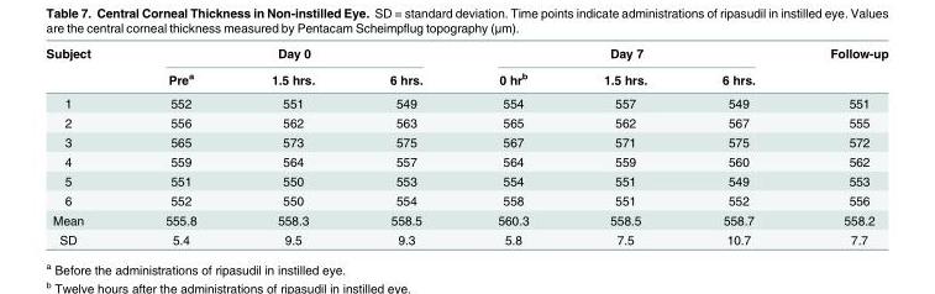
<table><thead><tr><td rowspan="2">Subject</td><td colspan="3">Day 0</td><td colspan="3">Day 7</td><td rowspan="2">Follow-up</td></tr><tr><td>Pre<sup>a</sup></td><td>1.5 hrs.</td><td>6 hrs.</td><td>0 hr<sup>b</sup></td><td>1.5 hrs.</td><td>6 hrs.</td></tr></thead><tbody><tr><td>1</td><td>552</td><td>551</td><td>549</td><td>554</td><td>557</td><td>549</td><td>551</td></tr><tr><td>2</td><td>556</td><td>562</td><td>563</td><td>565</td><td>562</td><td>567</td><td>555</td></tr><tr><td>3</td><td>565</td><td>573</td><td>575</td><td>567</td><td>571</td><td>575</td><td>572</td></tr><tr><td>4</td><td>559</td><td>564</td><td>557</td><td>564</td><td>559</td><td>560</td><td>562</td></tr><tr><td>5</td><td>551</td><td>550</td><td>553</td><td>554</td><td>551</td><td>549</td><td>553</td></tr><tr><td>6</td><td>552</td><td>550</td><td>554</td><td>558</td><td>551</td><td>552</td><td>556</td></tr><tr><td>Mean</td><td>555.8</td><td>558.3</td><td>558.5</td><td>560.3</td><td>558.5</td><td>558.7</td><td>558.2</td></tr><tr><td>SD</td><td>5.4</td><td>9.5</td><td>9.3</td><td>5.8</td><td>7.5</td><td>10.7</td><td>7.7</td></tr></tbody></table>